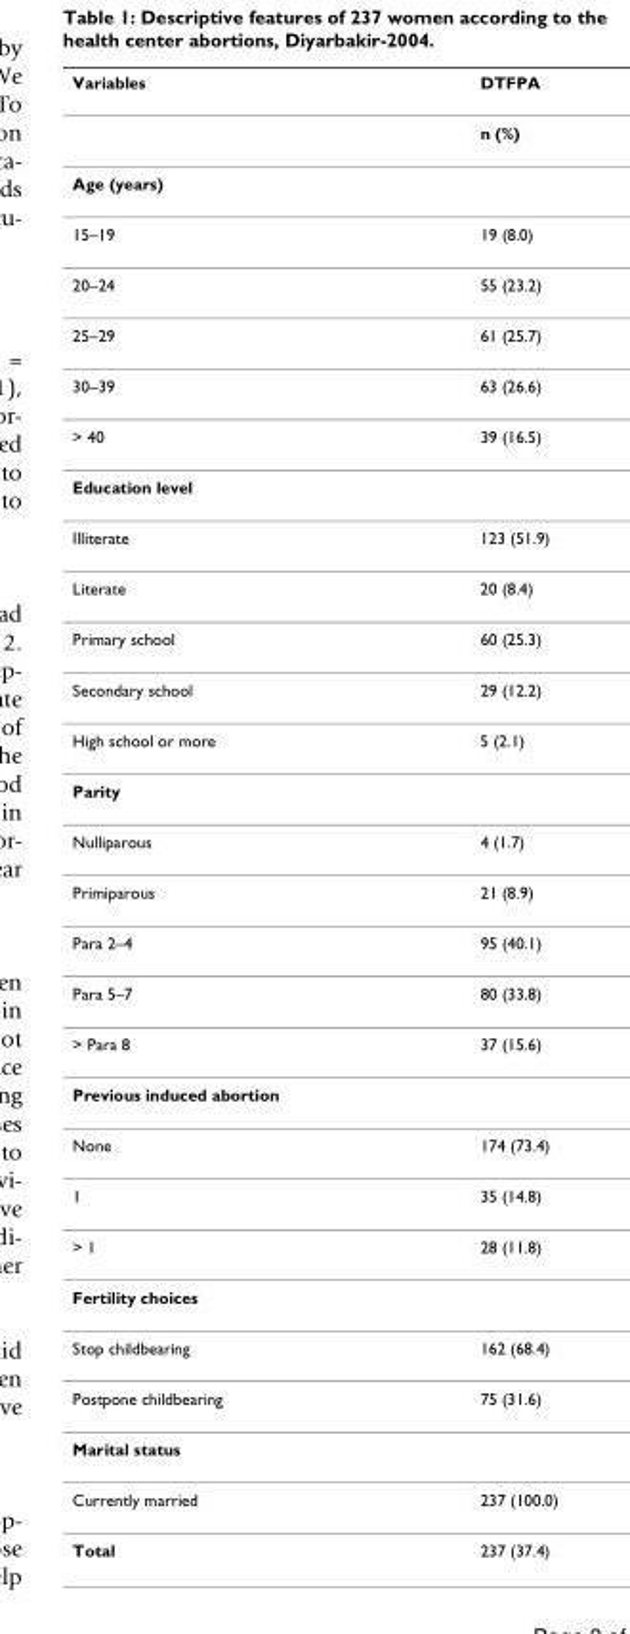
<table><thead><tr><td>Variables</td><td>DTFPA</td></tr></thead><tbody><tr><td></td><td>n (%)</td></tr><tr><td colspan="2">Age (years)</td></tr><tr><td>15–19</td><td>19 (8.0)</td></tr><tr><td>20–24</td><td>55 (23.2)</td></tr><tr><td>25–29</td><td>61 (25.7)</td></tr><tr><td>30–39</td><td>63 (26.6)</td></tr><tr><td>&gt; 40</td><td>39 (16.5)</td></tr><tr><td colspan="2">Education level</td></tr><tr><td>Illiterate</td><td>123 (51.9)</td></tr><tr><td>Literate</td><td>20 (8.4)</td></tr><tr><td>Primary school</td><td>60 (25.3)</td></tr><tr><td>Secondary school</td><td>29 (12.2)</td></tr><tr><td>High school or more</td><td>5 (2.1)</td></tr><tr><td colspan="2">Parity</td></tr><tr><td>Nulliparous</td><td>4 (1.7)</td></tr><tr><td>Primiparous</td><td>21 (8.9)</td></tr><tr><td>Para 2–4</td><td>95 (40.1)</td></tr><tr><td>Para 5–7</td><td>80 (33.8)</td></tr><tr><td>&gt; Para 8</td><td>37 (15.6)</td></tr><tr><td colspan="2">Previous induced abortion</td></tr><tr><td>None</td><td>174 (73.4)</td></tr><tr><td>1</td><td>35 (14.8)</td></tr><tr><td>&gt; 1</td><td>28 (11.8)</td></tr><tr><td colspan="2">Fertility choices</td></tr><tr><td>Stop childbearing</td><td>162 (68.4)</td></tr><tr><td>Postpone childbearing</td><td>75 (31.6)</td></tr><tr><td colspan="2">Marital status</td></tr><tr><td>Currently married</td><td>237 (100.0)</td></tr><tr><td>Total</td><td>237 (37.4)</td></tr></tbody></table>